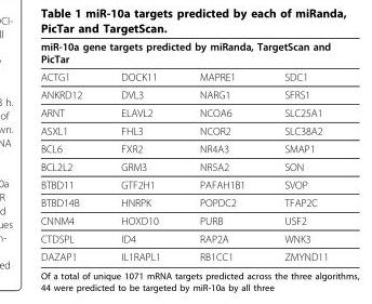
<table><thead><tr><td colspan="4">miR-10a gene targets predicted by miRanda, TargetScan and PicTar</td></tr><tr><td>ACTG1</td><td>DOCK11</td><td>MAPRE1</td><td>SDC1</td></tr></thead><tbody><tr><td>ANKRD12</td><td>DVL3</td><td>NARG1</td><td>SFRS1</td></tr><tr><td>ARNT</td><td>ELAVL2</td><td>NCOA6</td><td>SLC25A1</td></tr><tr><td>ASXL1</td><td>FHL3</td><td>NCOR2</td><td>SLC38A2</td></tr><tr><td>BCL6</td><td>FXR2</td><td>NR4A3</td><td>SMAP1</td></tr><tr><td>BCL2L2</td><td>GRM3</td><td>NR5A2</td><td>SON</td></tr><tr><td>BTBD11</td><td>GTF2H1</td><td>PAFAH1B1</td><td>SVOP</td></tr><tr><td>BTBD14B</td><td>HNRPK</td><td>POPDC2</td><td>TFAP2C</td></tr><tr><td>CNNM4</td><td>HOXD10</td><td>PURB</td><td>USF2</td></tr><tr><td>CTDSPL</td><td>ID4</td><td>RAP2A</td><td>WNK3</td></tr><tr><td>DAZAP1</td><td>IL1RAPL1</td><td>RB1CC1</td><td>ZMYND11</td></tr></tbody></table>